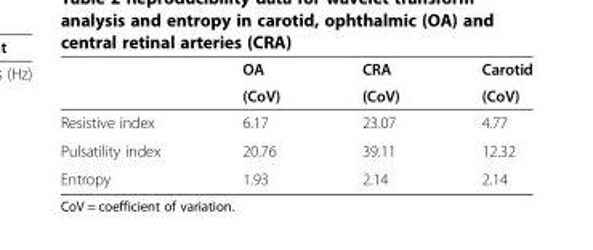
<table><thead><tr><td rowspan="2"></td><td rowspan="2">OA (CoV)</td><td rowspan="2">CRA (CoV)</td><td rowspan="2">Carotid (CoV)</td></tr><tr></tr></thead><tbody><tr><td>Resistive index</td><td>6.17</td><td>23.07</td><td>4.77</td></tr><tr><td>Pulsatility index</td><td>20.76</td><td>39.11</td><td>12.32</td></tr><tr><td>Entropy</td><td>1.93</td><td>2.14</td><td>2.14</td></tr></tbody></table>